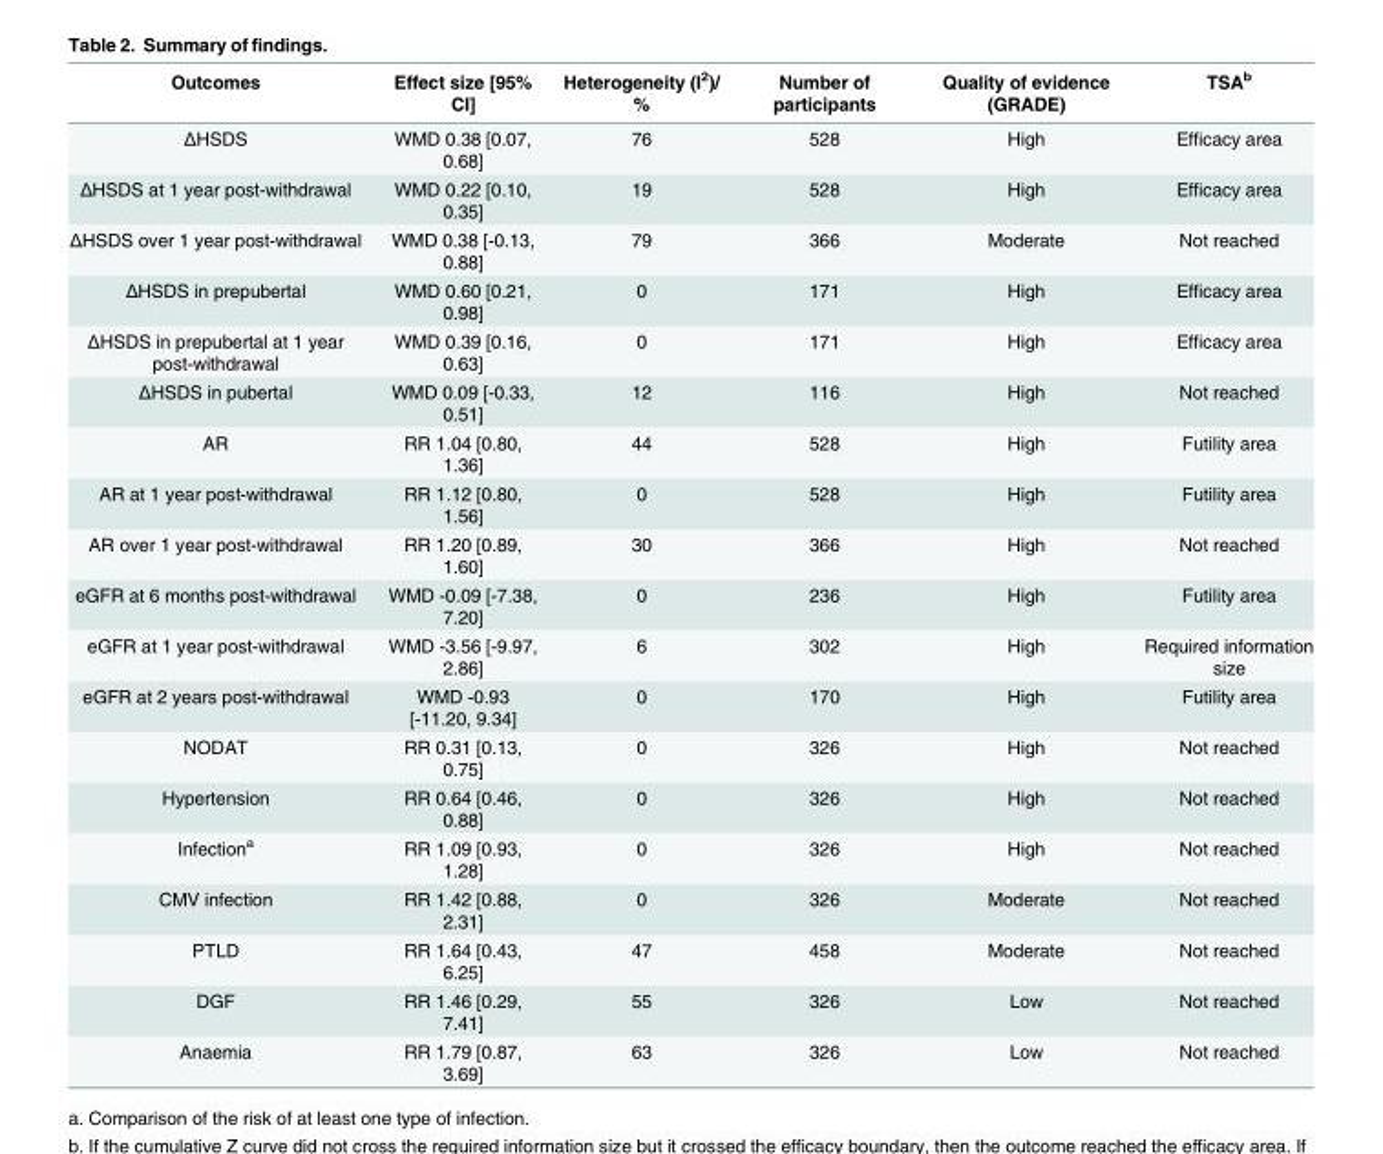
<table><thead><tr><td>Outcomes</td><td>Effect size [95% CI]</td><td>Heterogeneity (I<sup>2</sup>)/ %</td><td>Number of participants</td><td>Quality of evidence (GRADE)</td><td>TSA<sup>b</sup></td></tr></thead><tbody><tr><td>ΔHSDS</td><td>WMD 0.38 [0.07, 0.68]</td><td>76</td><td>528</td><td>High</td><td>Efficacy area</td></tr><tr><td>ΔHSDS at 1 year post-withdrawal</td><td>WMD 0.22 [0.10, 0.35]</td><td>19</td><td>528</td><td>High</td><td>Efficacy area</td></tr><tr><td>ΔHSDS over 1 year post-withdrawal</td><td>WMD 0.38 [-0.13, 0.88]</td><td>79</td><td>366</td><td>Moderate</td><td>Not reached</td></tr><tr><td>ΔHSDS in prepubertal</td><td>WMD 0.60 [0.21, 0.98]</td><td>0</td><td>171</td><td>High</td><td>Efficacy area</td></tr><tr><td>ΔHSDS in prepubertal at 1 year post-withdrawal</td><td>WMD 0.39 [0.16, 0.63]</td><td>0</td><td>171</td><td>High</td><td>Efficacy area</td></tr><tr><td>ΔHSDS in pubertal</td><td>WMD 0.09 [-0.33, 0.51]</td><td>12</td><td>116</td><td>High</td><td>Not reached</td></tr><tr><td>AR</td><td>RR 1.04 [0.80, 1.36]</td><td>44</td><td>528</td><td>High</td><td>Futility area</td></tr><tr><td>AR at 1 year post-withdrawal</td><td>RR 1.12 [0.80, 1.56]</td><td>0</td><td>528</td><td>High</td><td>Futility area</td></tr><tr><td>AR over 1 year post-withdrawal</td><td>RR 1.20 [0.89, 1.60]</td><td>30</td><td>366</td><td>High</td><td>Not reached</td></tr><tr><td>eGFR at 6 months post-withdrawal</td><td>WMD -0.09 [-7.38, 7.20]</td><td>0</td><td>236</td><td>High</td><td>Futility area</td></tr><tr><td>eGFR at 1 year post-withdrawal</td><td>WMD -3.56 [-9.97, 2.86]</td><td>6</td><td>302</td><td>High</td><td>Required information size</td></tr><tr><td>eGFR at 2 years post-withdrawal</td><td>WMD -0.93 [-11.20, 9.34]</td><td>0</td><td>170</td><td>High</td><td>Futility area</td></tr><tr><td>NODAT</td><td>RR 0.31 [0.13, 0.75]</td><td>0</td><td>326</td><td>High</td><td>Not reached</td></tr><tr><td>Hypertension</td><td>RR 0.64 [0.46, 0.88]</td><td>0</td><td>326</td><td>High</td><td>Not reached</td></tr><tr><td>Infection<sup>a</sup></td><td>RR 1.09 [0.93, 1.28]</td><td>0</td><td>326</td><td>High</td><td>Not reached</td></tr><tr><td>CMV infection</td><td>RR 1.42 [0.88, 2.31]</td><td>0</td><td>326</td><td>Moderate</td><td>Not reached</td></tr><tr><td>PTLD</td><td>RR 1.64 [0.43, 6.25]</td><td>47</td><td>458</td><td>Moderate</td><td>Not reached</td></tr><tr><td>DGF</td><td>RR 1.46 [0.29, 7.41]</td><td>55</td><td>326</td><td>Low</td><td>Not reached</td></tr><tr><td>Anaemia</td><td>RR 1.79 [0.87, 3.69]</td><td>63</td><td>326</td><td>Low</td><td>Not reached</td></tr></tbody></table>